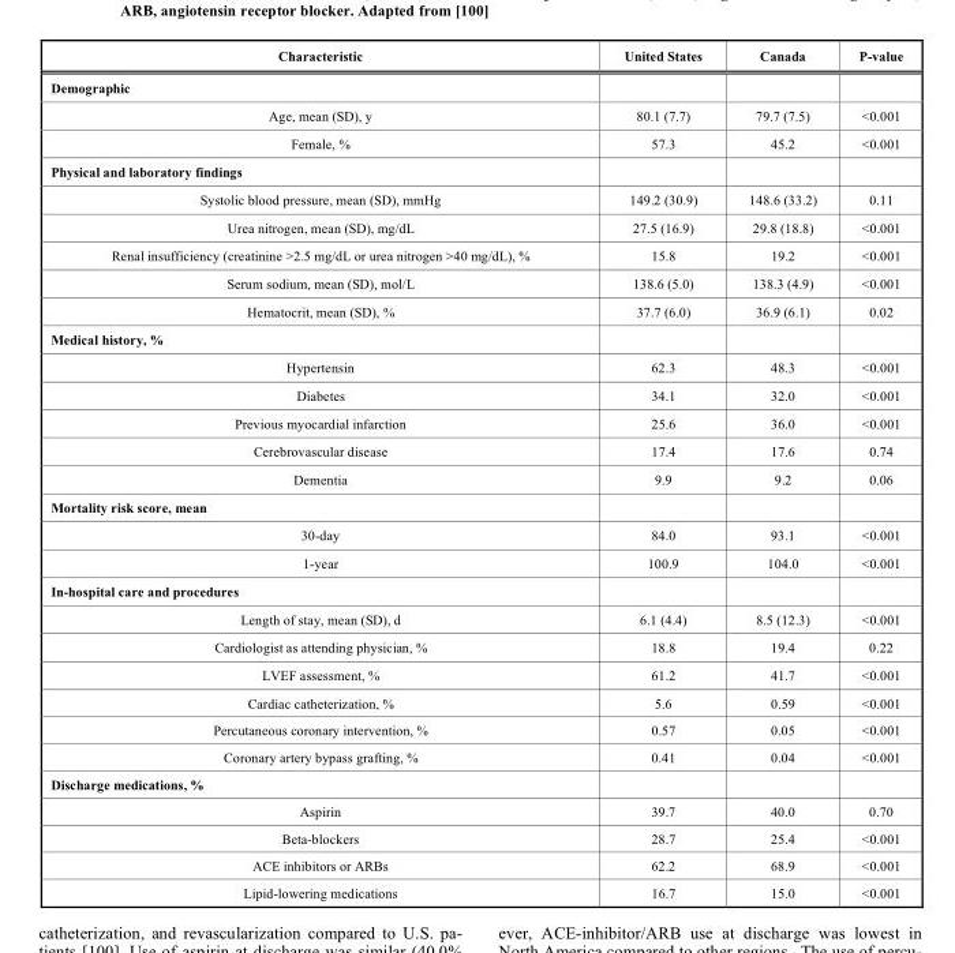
<table><thead><tr><td>Characteristic</td><td>United States</td><td>Canada</td><td>P-value</td></tr></thead><tbody><tr><td colspan="4">Demographic</td></tr><tr><td>Age, mean (SD), y</td><td>80.1 (7.7)</td><td>79.7 (7.5)</td><td>&lt;0.001</td></tr><tr><td>Female, %</td><td>57.3</td><td>45.2</td><td>&lt;0.001</td></tr><tr><td colspan="4">Physical and laboratory findings</td></tr><tr><td>Systolic blood pressure, mean (SD), mmHg</td><td>149.2 (30.9)</td><td>148.6 (33.2)</td><td>0.11</td></tr><tr><td>Urea nitrogen, mean (SD), mg/dL</td><td>27.5 (16.9)</td><td>29.8 (18.8)</td><td>&lt;0.001</td></tr><tr><td>Renal insufficiency (creatinine &gt;2.5 mg/dL or urea nitrogen &gt;40 mg/dL), %</td><td>15.8</td><td>19.2</td><td>&lt;0.001</td></tr><tr><td>Serum sodium, mean (SD), mol/L</td><td>138.6 (5.0)</td><td>138.3 (4.9)</td><td>&lt;0.001</td></tr><tr><td>Hematocrit, mean (SD), %</td><td>37.7 (6.0)</td><td>36.9 (6.1)</td><td>0.02</td></tr><tr><td colspan="4">Medical history, %</td></tr><tr><td>Hypertensin</td><td>62.3</td><td>48.3</td><td>&lt;0.001</td></tr><tr><td>Diabetes</td><td>34.1</td><td>32.0</td><td>&lt;0.001</td></tr><tr><td>Previous myocardial infarction</td><td>25.6</td><td>36.0</td><td>&lt;0.001</td></tr><tr><td>Cerebrovascular disease</td><td>17.4</td><td>17.6</td><td>0.74</td></tr><tr><td>Dementia</td><td>9.9</td><td>9.2</td><td>0.06</td></tr><tr><td colspan="4">Mortality risk score, mean</td></tr><tr><td>30-day</td><td>84.0</td><td>93.1</td><td>&lt;0.001</td></tr><tr><td>1-year</td><td>100.9</td><td>104.0</td><td>&lt;0.001</td></tr><tr><td colspan="4">In-hospital care and procedures</td></tr><tr><td>Length of stay, mean (SD), d</td><td>6.1 (4.4)</td><td>8.5 (12.3)</td><td>&lt;0.001</td></tr><tr><td>Cardiologist as attending physician, %</td><td>18.8</td><td>19.4</td><td>0.22</td></tr><tr><td>LVEF assessment, %</td><td>61.2</td><td>41.7</td><td>&lt;0.001</td></tr><tr><td>Cardiac catheterization, %</td><td>5.6</td><td>0.59</td><td>&lt;0.001</td></tr><tr><td>Percutaneous coronary intervention, %</td><td>0.57</td><td>0.05</td><td>&lt;0.001</td></tr><tr><td>Coronary artery bypass grafting, %</td><td>0.41</td><td>0.04</td><td>&lt;0.001</td></tr><tr><td colspan="4">Discharge medications, %</td></tr><tr><td>Aspirin</td><td>39.7</td><td>40.0</td><td>0.70</td></tr><tr><td>Beta-blockers</td><td>28.7</td><td>25.4</td><td>&lt;0.001</td></tr><tr><td>ACE inhibitors or ARBs</td><td>62.2</td><td>68.9</td><td>&lt;0.001</td></tr><tr><td>Lipid-lowering medications</td><td>16.7</td><td>15.0</td><td>&lt;0.001</td></tr></tbody></table>